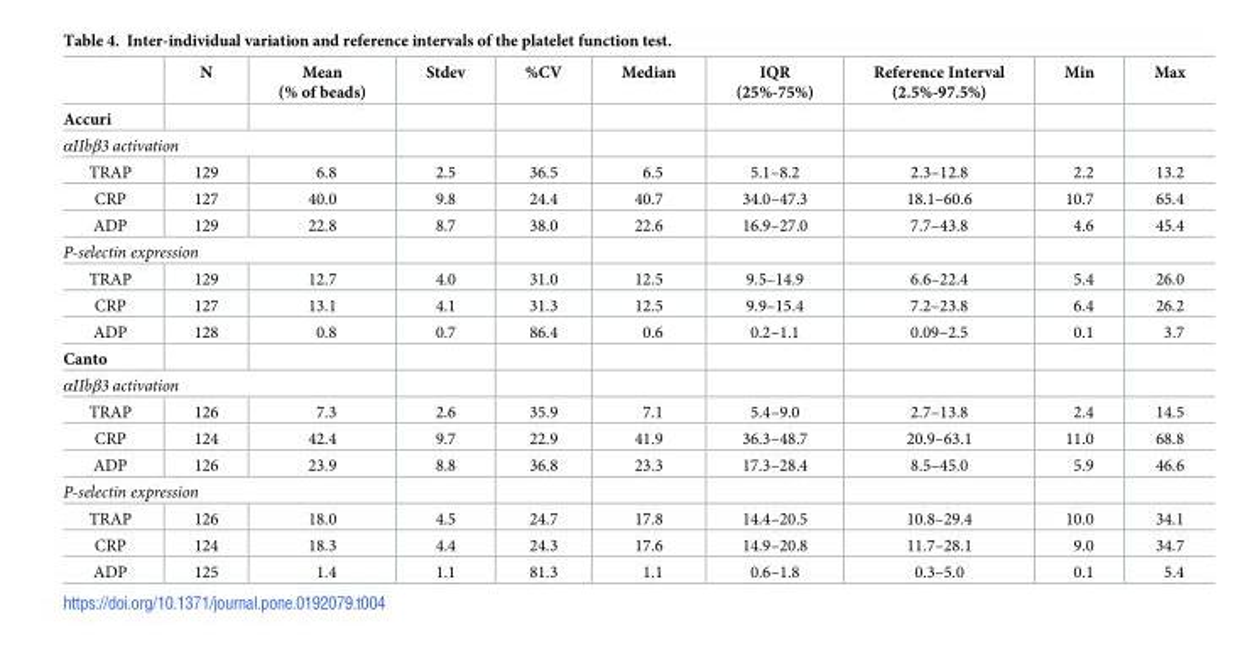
<table><thead><tr><td></td><td>N</td><td>Mean (% of beads)</td><td>Stdev</td><td>%CV</td><td>Median</td><td>IQR (25%-75%)</td><td>Reference Interval (2.5%-97.5%)</td><td>Min</td><td>Max</td></tr></thead><tbody><tr><td colspan="10">Accuri</td></tr><tr><td colspan="10">αIIbβ3 activation</td></tr><tr><td>TRAP</td><td>129</td><td>6.8</td><td>2.5</td><td>36.5</td><td>6.5</td><td>5.1–8.2</td><td>2.3–12.8</td><td>2.2</td><td>13.2</td></tr><tr><td>CRP</td><td>127</td><td>40.0</td><td>9.8</td><td>24.4</td><td>40.7</td><td>34.0–47.3</td><td>18.1–60.6</td><td>10.7</td><td>65.4</td></tr><tr><td>ADP</td><td>129</td><td>22.8</td><td>8.7</td><td>38.0</td><td>22.6</td><td>16.9–27.0</td><td>7.7–43.8</td><td>4.6</td><td>45.4</td></tr><tr><td colspan="10">P-selectin expression</td></tr><tr><td>TRAP</td><td>129</td><td>12.7</td><td>4.0</td><td>31.0</td><td>12.5</td><td>9.5–14.9</td><td>6.6–22.4</td><td>5.4</td><td>26.0</td></tr><tr><td>CRP</td><td>127</td><td>13.1</td><td>4.1</td><td>31.3</td><td>12.5</td><td>9.9–15.4</td><td>7.2–23.8</td><td>6.4</td><td>26.2</td></tr><tr><td>ADP</td><td>128</td><td>0.8</td><td>0.7</td><td>86.4</td><td>0.6</td><td>0.2–1.1</td><td>0.09–2.5</td><td>0.1</td><td>3.7</td></tr><tr><td colspan="10">Canto</td></tr><tr><td colspan="10">αIIbβ3 activation</td></tr><tr><td>TRAP</td><td>126</td><td>7.3</td><td>2.6</td><td>35.9</td><td>7.1</td><td>5.4–9.0</td><td>2.7–13.8</td><td>2.4</td><td>14.5</td></tr><tr><td>CRP</td><td>124</td><td>42.4</td><td>9.7</td><td>22.9</td><td>41.9</td><td>36.3–48.7</td><td>20.9–63.1</td><td>11.0</td><td>68.8</td></tr><tr><td>ADP</td><td>126</td><td>23.9</td><td>8.8</td><td>36.8</td><td>23.3</td><td>17.3–28.4</td><td>8.5–45.0</td><td>5.9</td><td>46.6</td></tr><tr><td colspan="10">P-selectin expression</td></tr><tr><td>TRAP</td><td>126</td><td>18.0</td><td>4.5</td><td>24.7</td><td>17.8</td><td>14.4–20.5</td><td>10.8–29.4</td><td>10.0</td><td>34.1</td></tr><tr><td>CRP</td><td>124</td><td>18.3</td><td>4.4</td><td>24.3</td><td>17.6</td><td>14.9–20.8</td><td>11.7–28.1</td><td>9.0</td><td>34.7</td></tr><tr><td>ADP</td><td>125</td><td>1.4</td><td>1.1</td><td>81.3</td><td>1.1</td><td>0.6–1.8</td><td>0.3–5.0</td><td>0.1</td><td>5.4</td></tr></tbody></table>